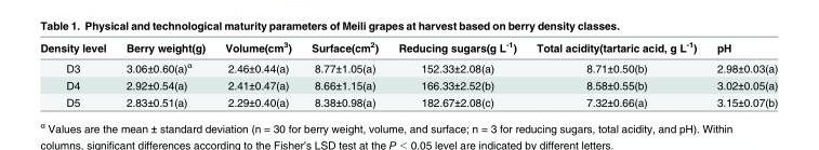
<table><thead><tr><td>Density level</td><td>Berry weight(g)</td><td>Volume(cm<sup>3</sup>)</td><td>Surface(cm<sup>2</sup>)</td><td>Reducing sugars(g L<sup>-1</sup>)</td><td>Total acidity(tartaric acid, g L<sup>-1</sup>)</td><td>pH</td></tr></thead><tbody><tr><td>D3</td><td>3.06±0.60(a)<sup>α</sup></td><td>2.46±0.44(a)</td><td>8.77±1.05(a)</td><td>152.33±2.08(a)</td><td>8.71±0.50(b)</td><td>2.98±0.03(a)</td></tr><tr><td>D4</td><td>2.92±0.54(a)</td><td>2.41±0.47(a)</td><td>8.66±1.15(a)</td><td>166.33±2.52(b)</td><td>8.58±0.55(b)</td><td>3.02±0.05(a)</td></tr><tr><td>D5</td><td>2.83±0.51(a)</td><td>2.29±0.40(a)</td><td>8.38±0.98(a)</td><td>182.67±2.08(c)</td><td>7.32±0.66(a)</td><td>3.15±0.07(b)</td></tr></tbody></table>